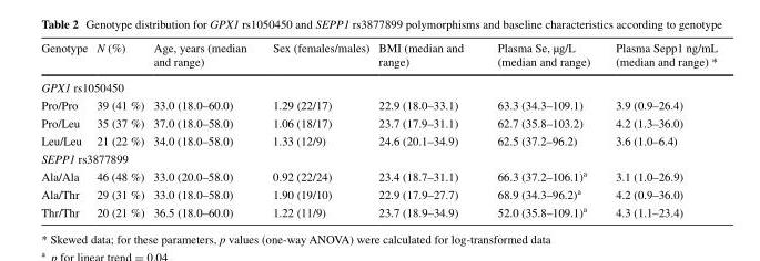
<table><thead><tr><td>Genotype</td><td>N (%)</td><td>Age, years (median and range)</td><td>Sex (females/males)</td><td>BMI (median and range)</td><td>Plasma Se, µg/L (median and range)</td><td>Plasma Sepp1 ng/mL (median and range) *</td></tr></thead><tbody><tr><td colspan="7">GPX1 rs1050450</td></tr><tr><td>Pro/Pro</td><td>39 (41 %)</td><td>33.0 (18.0–60.0)</td><td>1.29 (22/17)</td><td>22.9 (18.0–33.1)</td><td>63.3 (34.3–109.1)</td><td>3.9 (0.9–26.4)</td></tr><tr><td>Pro/Leu</td><td>35 (37 %)</td><td>37.0 (18.0–58.0)</td><td>1.06 (18/17)</td><td>23.7 (17.9–31.1)</td><td>62.7 (35.8–103.2)</td><td>4.2 (1.3–36.0)</td></tr><tr><td>Leu/Leu</td><td>21 (22 %)</td><td>34.0 (18.0–58.0)</td><td>1.33 (12/9)</td><td>24.6 (20.1–34.9)</td><td>62.5 (37.2–96.2)</td><td>3.6 (1.0–6.4)</td></tr><tr><td colspan="7">SEPP1 rs3877899</td></tr><tr><td>Ala/Ala</td><td>46 (48 %)</td><td>33.0 (20.0–58.0)</td><td>0.92 (22/24)</td><td>23.4 (18.7–31.1)</td><td>66.3 (37.2–106.1)<sup>a</sup></td><td>3.1 (1.0–26.9)</td></tr><tr><td>Ala/Thr</td><td>29 (31 %)</td><td>33.0 (18.0–58.0)</td><td>1.90 (19/10)</td><td>22.9 (17.9–27.7)</td><td>68.9 (34.3–96.2)<sup>a</sup></td><td>4.2 (0.9–36.0)</td></tr><tr><td>Thr/Thr</td><td>20 (21 %)</td><td>36.5 (18.0–60.0)</td><td>1.22 (11/9)</td><td>23.7 (18.9–34.9)</td><td>52.0 (35.8–109.1)<sup>a</sup></td><td>4.3 (1.1–23.4)</td></tr></tbody></table>